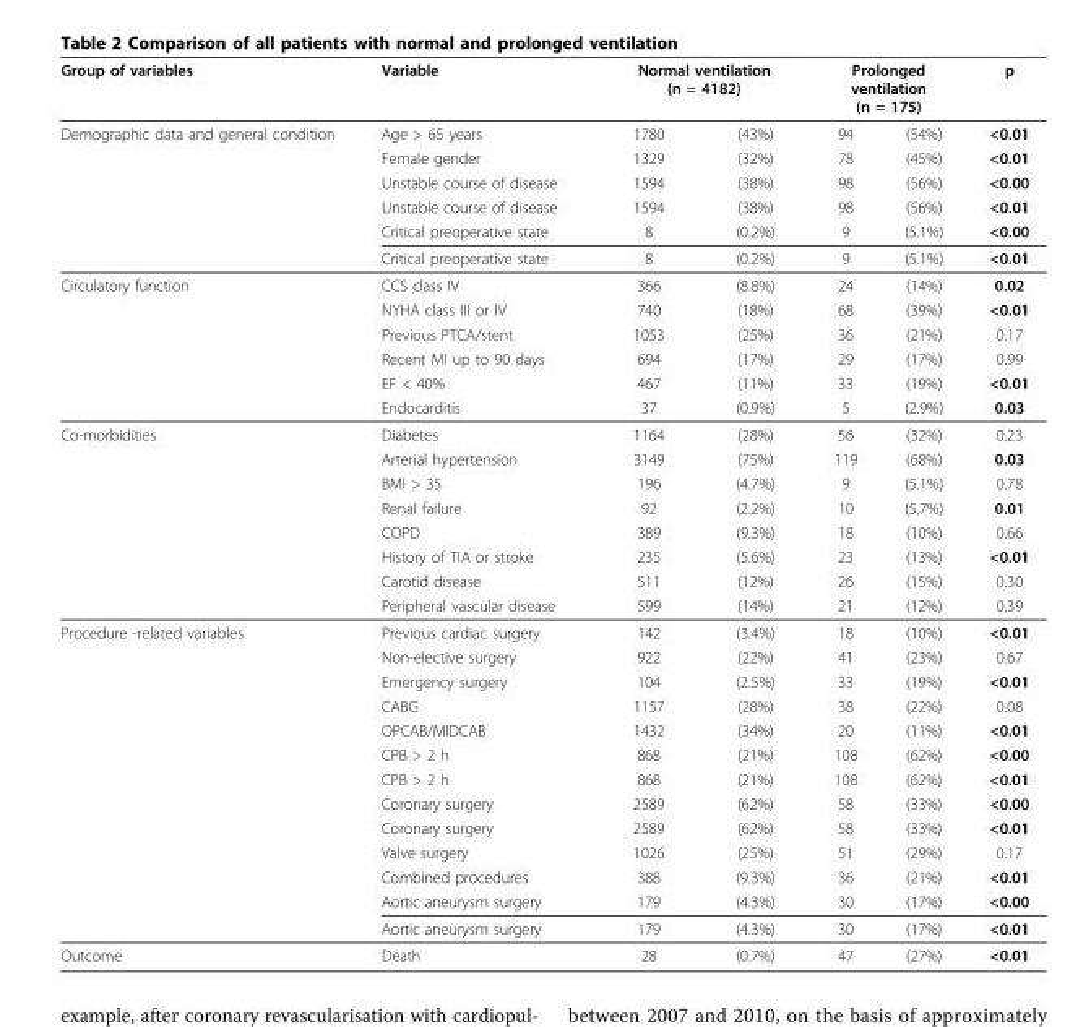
<table><thead><tr><td rowspan="2">Group of variables Demographic data and general condition</td><td rowspan="2">Variable Age &gt; 65 years</td><td colspan="2">Normal ventilation (n = 4182)</td><td colspan="2">Prolonged ventilation (n = 175)</td><td rowspan="2">p &lt;0.01</td></tr><tr><td>1780</td><td>(43%)</td><td>94</td><td>(54%)</td></tr></thead><tbody><tr><td></td><td>Female gender</td><td>1329</td><td>(32%)</td><td>78</td><td>(45%)</td><td>&lt;0.01</td></tr><tr><td></td><td>Unstable course of disease</td><td>1594</td><td>(38%)</td><td>98</td><td>(56%)</td><td>&lt;0.00</td></tr><tr><td></td><td>Unstable course of disease</td><td>1594</td><td>(38%)</td><td>98</td><td>(56%)</td><td>&lt;0.01</td></tr><tr><td></td><td>Critical preoperative state</td><td>8</td><td>(0.2%)</td><td>9</td><td>(5.1%)</td><td>&lt;0.00</td></tr><tr><td></td><td>Critical preoperative state</td><td>8</td><td>(0.2%)</td><td>9</td><td>(5.1%)</td><td>&lt;0.01</td></tr><tr><td rowspan="6">Circulatory function</td><td>CCS class IV</td><td>366</td><td>(8.8%)</td><td>24</td><td>(14%)</td><td>0.02</td></tr><tr><td>NYHA class III or IV</td><td>740</td><td>(18%)</td><td>68</td><td>(39%)</td><td>&lt;0.01</td></tr><tr><td>Previous PTCA/stent</td><td>1053</td><td>(25%)</td><td>36</td><td>(21%)</td><td>0.17</td></tr><tr><td>Recent MI up to 90 days</td><td>694</td><td>(17%)</td><td>29</td><td>(17%)</td><td>0.99</td></tr><tr><td>EF &lt; 40%</td><td>467</td><td>(11%)</td><td>33</td><td>(19%)</td><td>&lt;0.01</td></tr><tr><td>Endocarditis</td><td>37</td><td>(0.9%)</td><td>5</td><td>(2.9%)</td><td>0.03</td></tr><tr><td rowspan="8">Co-morbidities</td><td>Diabetes</td><td>1164</td><td>(28%)</td><td>56</td><td>(32%)</td><td>0.23</td></tr><tr><td>Arterial hypertension</td><td>3149</td><td>(75%)</td><td>119</td><td>(68%)</td><td>0.03</td></tr><tr><td>BMI &gt; 35</td><td>196</td><td>(4.7%)</td><td>9</td><td>(5.1%)</td><td>0.78</td></tr><tr><td>Renal failure</td><td>92</td><td>(2.2%)</td><td>10</td><td>(5.7%)</td><td>0.01</td></tr><tr><td>COPD</td><td>389</td><td>(9.3%)</td><td>18</td><td>(10%)</td><td>0.66</td></tr><tr><td>History of TIA or stroke</td><td>235</td><td>(5.6%)</td><td>23</td><td>(13%)</td><td>&lt;0.01</td></tr><tr><td>Carotid disease</td><td>511</td><td>(12%)</td><td>26</td><td>(15%)</td><td>0.30</td></tr><tr><td>Peripheral vascular disease</td><td>599</td><td>(14%)</td><td>21</td><td>(12%)</td><td>0.39</td></tr><tr><td rowspan="13">Procedure -related variables</td><td>Previous cardiac surgery</td><td>142</td><td>(3.4%)</td><td>18</td><td>(10%)</td><td>&lt;0.01</td></tr><tr><td>Non-elective surgery</td><td>922</td><td>(22%)</td><td>41</td><td>(23%)</td><td>0.67</td></tr><tr><td>Emergency surgery</td><td>104</td><td>(2.5%)</td><td>33</td><td>(19%)</td><td>&lt;0.01</td></tr><tr><td>CABG</td><td>1157</td><td>(28%)</td><td>38</td><td>(22%)</td><td>0.08</td></tr><tr><td>OPCAB/MIDCAB</td><td>1432</td><td>(34%)</td><td>20</td><td>(11%)</td><td>&lt;0.01</td></tr><tr><td>CPB &gt; 2 h</td><td>868</td><td>(21%)</td><td>108</td><td>(62%)</td><td>&lt;0.00</td></tr><tr><td>CPB &gt; 2 h</td><td>868</td><td>(21%)</td><td>108</td><td>(62%)</td><td>&lt;0.01</td></tr><tr><td>Coronary surgery</td><td>2589</td><td>(62%)</td><td>58</td><td>(33%)</td><td>&lt;0.00</td></tr><tr><td>Coronary surgery</td><td>2589</td><td>(62%)</td><td>58</td><td>(33%)</td><td>&lt;0.01</td></tr><tr><td>Valve surgery</td><td>1026</td><td>(25%)</td><td>51</td><td>(29%)</td><td>0.17</td></tr><tr><td>Combined procedures</td><td>388</td><td>(9.3%)</td><td>36</td><td>(21%)</td><td>&lt;0.01</td></tr><tr><td>Aortic aneurysm surgery</td><td>179</td><td>(4.3%)</td><td>30</td><td>(17%)</td><td>&lt;0.00</td></tr><tr><td>Aortic aneurysm surgery</td><td>179</td><td>(4.3%)</td><td>30</td><td>(17%)</td><td>&lt;0.01</td></tr><tr><td>Outcome</td><td>Death</td><td>28</td><td>(0.7%)</td><td>47</td><td>(27%)</td><td>&lt;0.01</td></tr></tbody></table>